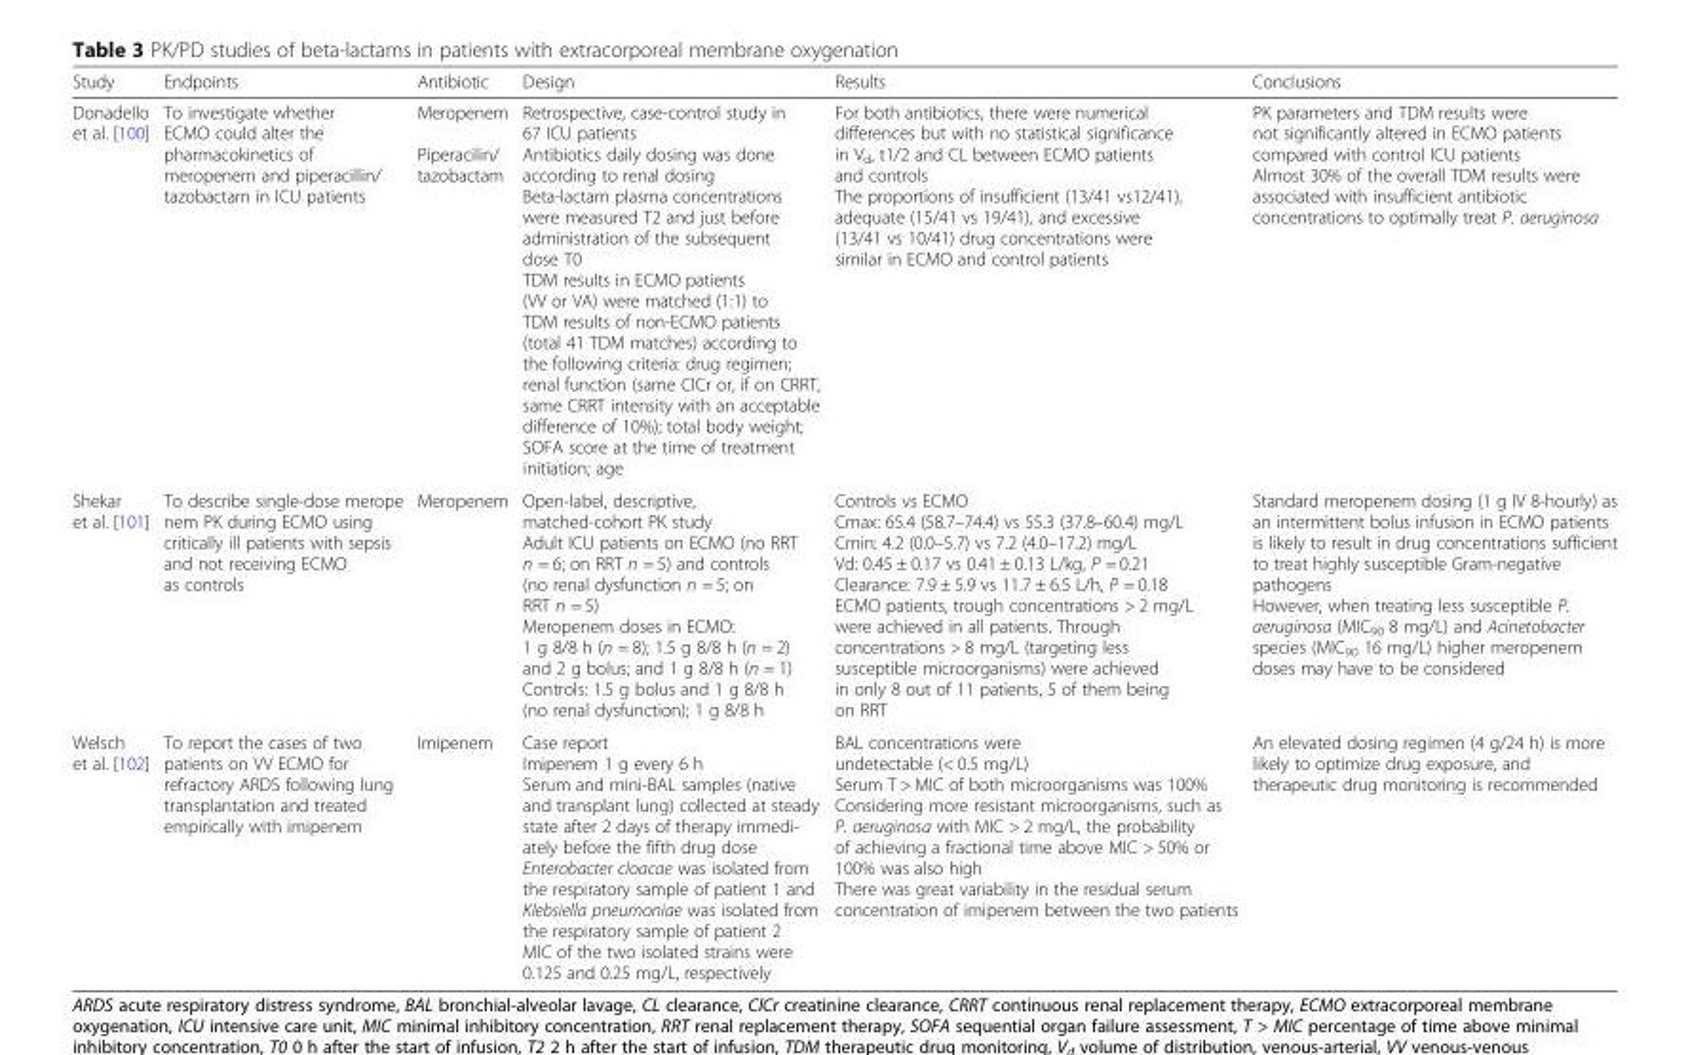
<table><thead><tr><td>Study</td><td>Endpoints</td><td>Antibiotic</td><td>Design</td><td>Results</td><td>Conclusions</td></tr></thead><tbody><tr><td>Donadello et al. [100]</td><td>To investigate whether ECMO could alter the pharmacokinetics of meropenem and piperacillin/ tazobactam in ICU patients</td><td>Meropenem Piperacilin/ tazobactam</td><td>Retrospective, case-control study in 67 ICU patients Antibiotics daily dosing was done according to renal dosing Beta-lactam plasma concentrations were measured T2 and just before administration of the subsequent dose T0 TDM results in ECMO patients (VV or VA) were matched (1:1) to TDM results of non-ECMO patients (total 41 TDM matches) according to the following criteria: drug regimen; renal function (same ClCr or, if on CRRT, same CRRT intensity with an acceptable difference of 10%); total body weight; SOFA score at the time of treatment initiation; age</td><td>For both antibiotics, there were numerical differences but with no statistical significance in V<sub>d</sub>, t1/2 and CL between ECMO patients and controls The proportions of insufficient (13/41 vs12/41), adequate (15/41 vs 19/41), and excessive (13/41 vs 10/41) drug concentrations were similar in ECMO and control patients</td><td>PK parameters and TDM results were not significantly altered in ECMO patients compared with control ICU patients Almost 30% of the overall TDM results were associated with insufficient antibiotic concentrations to optimally treat P. aeruginosa</td></tr><tr><td>Shekar et al. [101]</td><td>To describe single-dose merope nem PK during ECMO using critically ill patients with sepsis and not receiving ECMO as controls</td><td>Meropenem</td><td>Open-label, descriptive, matched-cohort PK study Adult ICU patients on ECMO (no RRT n = 6; on RRT n = 5) and controls (no renal dysfunction n = 5; on RRT n = 5) Meropenem doses in ECMO: 1 g 8/8 h (n = 8); 1.5 g 8/8 h (n = 2) and 2 g bolus; and 1 g 8/8 h (n = 1) Controls: 1.5 g bolus and 1 g 8/8 h (no renal dysfunction); 1 g 8/8 h</td><td>Controls vs ECMO Cmax: 65.4 (58.7–74.4) vs 55.3 (37.8–60.4) mg/L Cmin: 4.2 (0.0–5.7) vs 7.2 (4.0–17.2) mg/L Vd: 0.45 ± 0.17 vs 0.41 ± 0.13 L/kg, P = 0.21 Clearance: 7.9 ± 5.9 vs 11.7 ± 6.5 L/h, P = 0.18 ECMO patients, trough concentrations &gt; 2 mg/L were achieved in all patients. Through concentrations &gt; 8 mg/L (targeting less susceptible microorganisms) were achieved in only 8 out of 11 patients, 5 of them being on RRT</td><td>Standard meropenem dosing (1 g IV 8-hourly) as an intermittent bolus infusion in ECMO patients is likely to result in drug concentrations sufficient to treat highly susceptible Gram-negative pathogens However, when treating less susceptible P. aeruginosa (MIC<sub>90</sub> 8 mg/L) and Acinetobacter species (MIC<sub>90</sub> 16 mg/L) higher meropenem doses may have to be considered</td></tr><tr><td>Welsch et al. [102]</td><td>To report the cases of two patients on VV ECMO for refractory ARDS following lung transplantation and treated empirically with imipenem</td><td>Imipenem</td><td>Case report Imipenem 1 g every 6 h Serum and mini-BAL samples (native and transplant lung) collected at steady state after 2 days of therapy immedi- ately before the fifth drug dose Enterobacter cloacae was isolated from the respiratory sample of patient 1 and Klebsiella pneumoniae was isolated from the respiratory sample of patient 2 MIC of the two isolated strains were 0.125 and 0.25 mg/L, respectively</td><td>BAL concentrations were undetectable (&lt; 0.5 mg/L) Serum T &gt; MIC of both microorganisms was 100% Considering more resistant microorganisms, such as P. aeruginosa with MIC &gt; 2 mg/L, the probability of achieving a fractional time above MIC &gt; 50% or 100% was also high There was great variability in the residual serum concentration of imipenem between the two patients</td><td>An elevated dosing regimen (4 g/24 h) is more likely to optimize drug exposure, and therapeutic drug monitoring is recommended</td></tr></tbody></table>